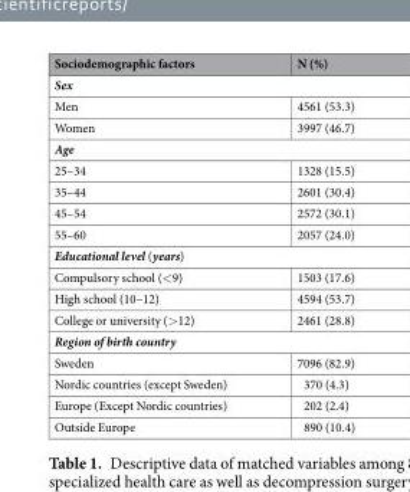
<table><thead><tr><td>Sociodemographic factors</td><td>N (%)</td></tr></thead><tbody><tr><td colspan="2">Sex</td></tr><tr><td>Men</td><td>4561 (53.3)</td></tr><tr><td>Women</td><td>3997 (46.7)</td></tr><tr><td colspan="2">Age</td></tr><tr><td>25–34</td><td>1328 (15.5)</td></tr><tr><td>35–44</td><td>2601 (30.4)</td></tr><tr><td>45–54</td><td>2572 (30.1)</td></tr><tr><td>55–60</td><td>2057 (24.0)</td></tr><tr><td colspan="2">Educational level (years)</td></tr><tr><td>Compulsory school (&lt;9)</td><td>1503 (17.6)</td></tr><tr><td>High school (10–12)</td><td>4594 (53.7)</td></tr><tr><td>College or university (&gt;12)</td><td>2461 (28.8)</td></tr><tr><td colspan="2">Region of birth country</td></tr><tr><td>Sweden</td><td>7096 (82.9)</td></tr><tr><td>Nordic countries (except Sweden)</td><td>370 (4.3)</td></tr><tr><td>Europe (Except Nordic countries)</td><td>202 (2.4)</td></tr><tr><td>Outside Europe</td><td>890 (10.4)</td></tr></tbody></table>